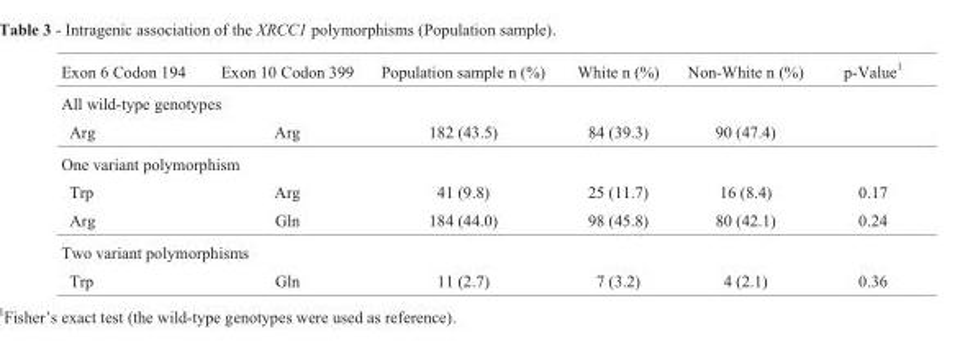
<table><thead><tr><td>Exon 6 Codon 194</td><td>Exon 10 Codon 399</td><td>Population sample n (%)</td><td>White n (%)</td><td>Non-White n (%)</td><td>p-Value<sup>1</sup></td></tr></thead><tbody><tr><td colspan="6">All wild-type genotypes</td></tr><tr><td>Arg</td><td>Arg</td><td>182 (43.5)</td><td>84 (39.3)</td><td>90 (47.4)</td><td></td></tr><tr><td colspan="6">One variant polymorphism</td></tr><tr><td>Trp</td><td>Arg</td><td>41 (9.8)</td><td>25 (11.7)</td><td>16 (8.4)</td><td>0.17</td></tr><tr><td>Arg</td><td>Gln</td><td>184 (44.0)</td><td>98 (45.8)</td><td>80 (42.1)</td><td>0.24</td></tr><tr><td colspan="6">Two variant polymorphisms</td></tr><tr><td>Trp</td><td>Gln</td><td>11 (2.7)</td><td>7 (3.2)</td><td>4 (2.1)</td><td>0.36</td></tr></tbody></table>